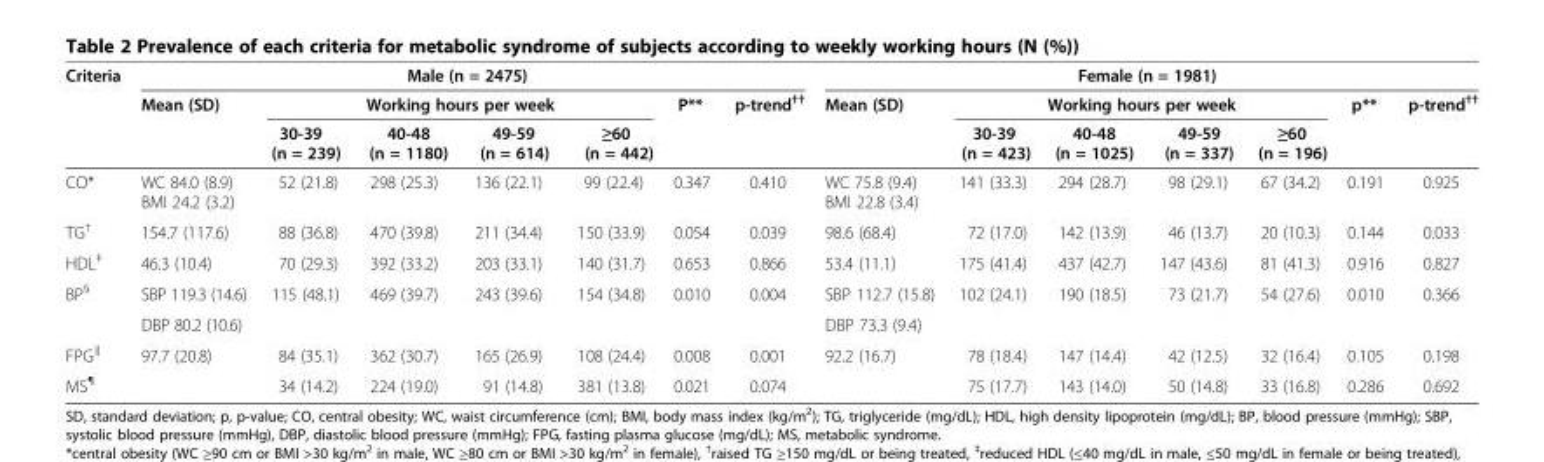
<table><thead><tr><td rowspan="3">Criteria</td><td colspan="7">Male (n = 2475)</td><td colspan="7">Female (n = 1981)</td></tr><tr><td rowspan="2">Mean (SD)</td><td colspan="4">Working hours per week</td><td rowspan="2">P**</td><td rowspan="2">p-trend<sup>††</sup></td><td rowspan="2">Mean (SD)</td><td colspan="4">Working hours per week</td><td rowspan="2">p**</td><td rowspan="2">p-trend<sup>††</sup></td></tr><tr><td>30-39 (n = 239)</td><td>40-48 (n = 1180)</td><td>49-59 (n = 614)</td><td>≥60 (n = 442)</td><td>30-39 (n = 423)</td><td>40-48 (n = 1025)</td><td>49-59 (n = 337)</td><td>≥60 (n = 196)</td></tr></thead><tbody><tr><td>CO*</td><td>WC 84.0 (8.9) BMI 24.2 (3.2)</td><td>52 (21.8)</td><td>298 (25.3)</td><td>136 (22.1)</td><td>99 (22.4)</td><td>0.347</td><td>0.410</td><td>WC 75.8 (9.4) BMI 22.8 (3.4)</td><td>141 (33.3)</td><td>294 (28.7)</td><td>98 (29.1)</td><td>67 (34.2)</td><td>0.191</td><td>0.925</td></tr><tr><td>TG<sup>†</sup></td><td>154.7 (117.6)</td><td>88 (36.8)</td><td>470 (39.8)</td><td>211 (34.4)</td><td>150 (33.9)</td><td>0.054</td><td>0.039</td><td>98.6 (68.4)</td><td>72 (17.0)</td><td>142 (13.9)</td><td>46 (13.7)</td><td>20 (10.3)</td><td>0.144</td><td>0.033</td></tr><tr><td>HDL<sup>‡</sup></td><td>46.3 (10.4)</td><td>70 (29.3)</td><td>392 (33.2)</td><td>203 (33.1)</td><td>140 (31.7)</td><td>0.653</td><td>0.866</td><td>53.4 (11.1)</td><td>175 (41.4)</td><td>437 (42.7)</td><td>147 (43.6)</td><td>81 (41.3)</td><td>0.916</td><td>0.827</td></tr><tr><td rowspan="2">BP<sup>§</sup></td><td>SBP 119.3 (14.6)</td><td rowspan="2">115 (48.1)</td><td rowspan="2">469 (39.7)</td><td rowspan="2">243 (39.6)</td><td rowspan="2">154 (34.8)</td><td rowspan="2">0.010</td><td rowspan="2">0.004</td><td>SBP 112.7 (15.8)</td><td rowspan="2">102 (24.1)</td><td rowspan="2">190 (18.5)</td><td rowspan="2">73 (21.7)</td><td rowspan="2">54 (27.6)</td><td rowspan="2">0.010</td><td rowspan="2">0.366</td></tr><tr><td>DBP 80.2 (10.6)</td><td>DBP 73.3 (9.4)</td></tr><tr><td>FPG<sup>∥</sup></td><td>97.7 (20.8)</td><td>84 (35.1)</td><td>362 (30.7)</td><td>165 (26.9)</td><td>108 (24.4)</td><td>0.008</td><td>0.001</td><td>92.2 (16.7)</td><td>78 (18.4)</td><td>147 (14.4)</td><td>42 (12.5)</td><td>32 (16.4)</td><td>0.105</td><td>0.198</td></tr><tr><td>MS<sup>¶</sup></td><td></td><td>34 (14.2)</td><td>224 (19.0)</td><td>91 (14.8)</td><td>381 (13.8)</td><td>0.021</td><td>0.074</td><td></td><td>75 (17.7)</td><td>143 (14.0)</td><td>50 (14.8)</td><td>33 (16.8)</td><td>0.286</td><td>0.692</td></tr></tbody></table>